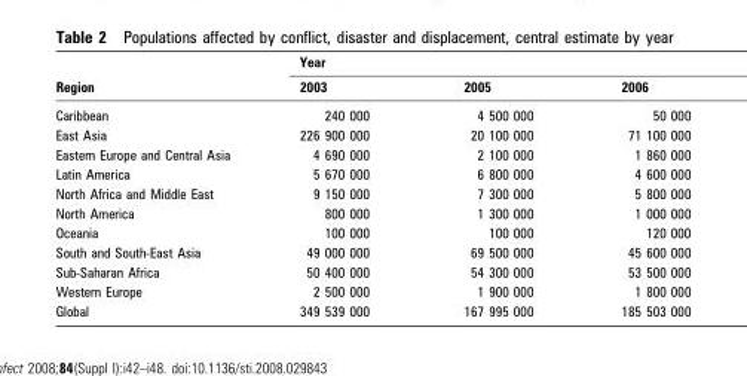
<table><thead><tr><td rowspan="2">Region</td><td colspan="3">Year</td></tr><tr><td>2003</td><td>2005</td><td>2006</td></tr></thead><tbody><tr><td>Caribbean</td><td>240 000</td><td>4 500 000</td><td>50 000</td></tr><tr><td>East Asia</td><td>226 900 000</td><td>20 100 000</td><td>71 100 000</td></tr><tr><td>Eastern Europe and Central Asia</td><td>4 690 000</td><td>2 100 000</td><td>1 860 000</td></tr><tr><td>Latin America</td><td>5 670 000</td><td>6 800 000</td><td>4 600 000</td></tr><tr><td>North Africa and Middle East</td><td>9 150 000</td><td>7 300 000</td><td>5 800 000</td></tr><tr><td>North America</td><td>800 000</td><td>1 300 000</td><td>1 000 000</td></tr><tr><td>Oceania</td><td>100 000</td><td>100 000</td><td>120 000</td></tr><tr><td>South and South-East Asia</td><td>49 000 000</td><td>69 500 000</td><td>45 600 000</td></tr><tr><td>Sub-Saharan Africa</td><td>50 400 000</td><td>54 300 000</td><td>53 500 000</td></tr><tr><td>Western Europe</td><td>2 500 000</td><td>1 900 000</td><td>1 800 000</td></tr><tr><td>Global</td><td>349 539 000</td><td>167 995 000</td><td>185 503 000</td></tr></tbody></table>